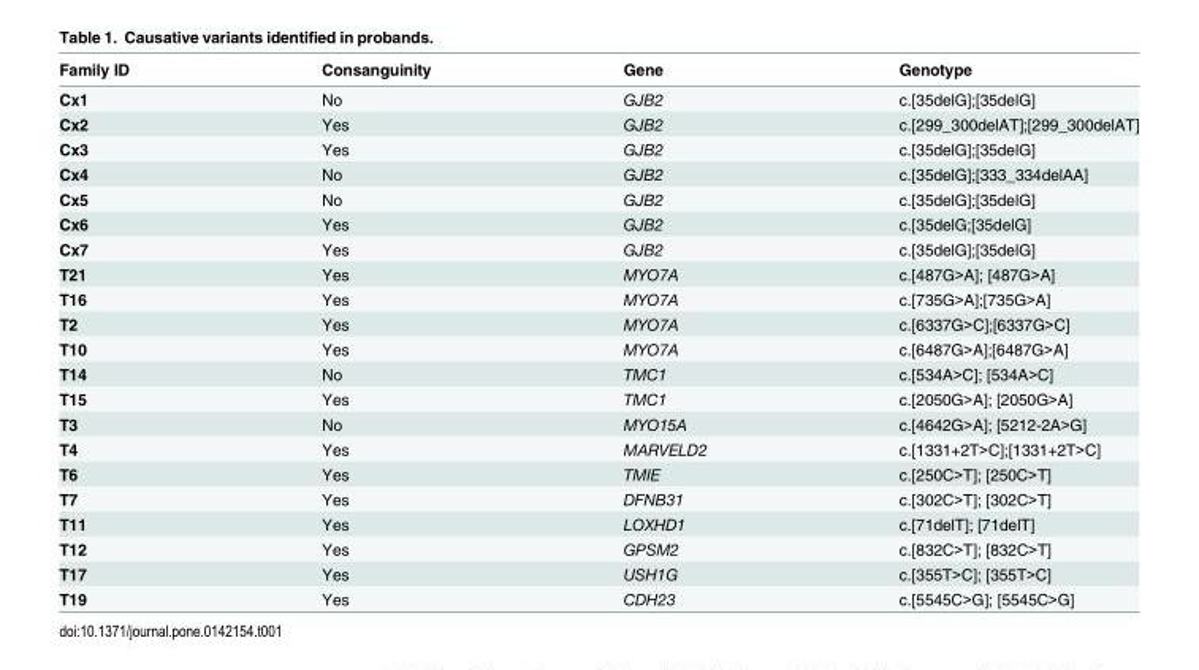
<table><thead><tr><td>Family ID</td><td>Consanguinity</td><td>Gene</td><td>Genotype</td></tr></thead><tbody><tr><td>Cx1</td><td>No</td><td>GJB2</td><td>c.[35delG];[35delG]</td></tr><tr><td>Cx2</td><td>Yes</td><td>GJB2</td><td>c.[299_300delAT];[299_300delAT]</td></tr><tr><td>Cx3</td><td>Yes</td><td>GJB2</td><td>c.[35delG];[35delG]</td></tr><tr><td>Cx4</td><td>No</td><td>GJB2</td><td>c.[35delG];[333_334delAA]</td></tr><tr><td>Cx5</td><td>No</td><td>GJB2</td><td>c.[35delG];[35delG]</td></tr><tr><td>Cx6</td><td>Yes</td><td>GJB2</td><td>c.[35delG;[35delG]</td></tr><tr><td>Cx7</td><td>Yes</td><td>GJB2</td><td>c.[35delG];[35delG]</td></tr><tr><td>T21</td><td>Yes</td><td>MYO7A</td><td>c.[487G&gt;A]; [487G&gt;A]</td></tr><tr><td>T16</td><td>Yes</td><td>MYO7A</td><td>c.[735G&gt;A];[735G&gt;A]</td></tr><tr><td>T2</td><td>Yes</td><td>MYO7A</td><td>c.[6337G&gt;C];[6337G&gt;C]</td></tr><tr><td>T10</td><td>Yes</td><td>MYO7A</td><td>c.[6487G&gt;A];[6487G&gt;A]</td></tr><tr><td>T14</td><td>No</td><td>TMC1</td><td>c.[534A&gt;C]; [534A&gt;C]</td></tr><tr><td>T15</td><td>Yes</td><td>TMC1</td><td>c.[2050G&gt;A]; [2050G&gt;A]</td></tr><tr><td>T3</td><td>No</td><td>MYO15A</td><td>c.[4642G&gt;A]; [5212-2A&gt;G]</td></tr><tr><td>T4</td><td>Yes</td><td>MARVELD2</td><td>c.[1331+2T&gt;C];[1331+2T&gt;C]</td></tr><tr><td>T6</td><td>Yes</td><td>TMIE</td><td>c.[250C&gt;T]; [250C&gt;T]</td></tr><tr><td>T7</td><td>Yes</td><td>DFNB31</td><td>c.[302C&gt;T]; [302C&gt;T]</td></tr><tr><td>T11</td><td>Yes</td><td>LOXHD1</td><td>c.[71delT]; [71delT]</td></tr><tr><td>T12</td><td>Yes</td><td>GPSM2</td><td>c.[832C&gt;T]; [832C&gt;T]</td></tr><tr><td>T17</td><td>Yes</td><td>USH1G</td><td>c.[355T&gt;C]; [355T&gt;C]</td></tr><tr><td>T19</td><td>Yes</td><td>CDH23</td><td>c.[5545C&gt;G]; [5545C&gt;G]</td></tr></tbody></table>